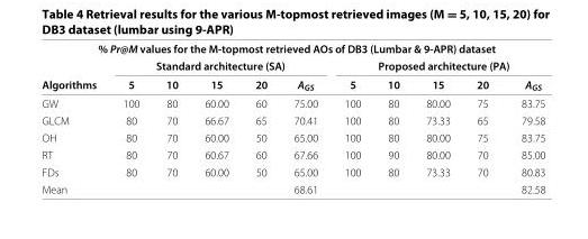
<table><thead><tr><td colspan="11">% Pr@M values for the M-topmost retrieved AOs of DB3 (Lumbar &amp; 9-APR) dataset</td></tr><tr><td rowspan="2">Algorithms</td><td colspan="5">Standard architecture (SA)</td><td colspan="5">Proposed architecture (PA)</td></tr><tr><td>5</td><td>10</td><td>15</td><td>20</td><td>A<sub>GS</sub></td><td>5</td><td>10</td><td>15</td><td>20</td><td>A<sub>GS</sub></td></tr></thead><tbody><tr><td>GW</td><td>100</td><td>80</td><td>60.00</td><td>60</td><td>75.00</td><td>100</td><td>80</td><td>80.00</td><td>75</td><td>83.75</td></tr><tr><td>GLCM</td><td>80</td><td>70</td><td>66.67</td><td>65</td><td>70.41</td><td>100</td><td>80</td><td>73.33</td><td>65</td><td>79.58</td></tr><tr><td>OH</td><td>80</td><td>70</td><td>60.00</td><td>50</td><td>65.00</td><td>100</td><td>80</td><td>80.00</td><td>75</td><td>83.75</td></tr><tr><td>RT</td><td>80</td><td>70</td><td>60.67</td><td>60</td><td>67.66</td><td>100</td><td>90</td><td>80.00</td><td>70</td><td>85.00</td></tr><tr><td>FDs</td><td>80</td><td>70</td><td>60.00</td><td>50</td><td>65.00</td><td>100</td><td>80</td><td>73.33</td><td>70</td><td>80.83</td></tr><tr><td>Mean</td><td></td><td></td><td></td><td></td><td>68.61</td><td></td><td></td><td></td><td></td><td>82.58</td></tr></tbody></table>